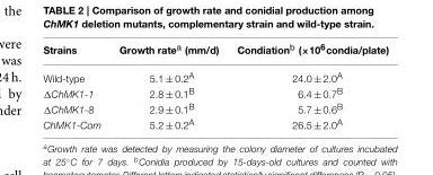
<table><thead><tr><td>Strains</td><td>Growth rate<sup>a</sup> (mm/d)</td><td>Condiation<sup>b</sup> (×10<sup>6</sup>condia/plate)</td></tr></thead><tbody><tr><td>Wild-type</td><td>5.1 ± 0.2<sup>A</sup></td><td>24.0 ± 2.0<sup>A</sup></td></tr><tr><td>ΔChMK1-1</td><td>2.8 ± 0.1<sup>B</sup></td><td>6.4 ± 0.7<sup>B</sup></td></tr><tr><td>ΔChMK1-8</td><td>2.9 ± 0.1<sup>B</sup></td><td>5.7 ± 0.6<sup>B</sup></td></tr><tr><td>ChMK1-Com</td><td>5.2 ± 0.2<sup>A</sup></td><td>26.5 ± 2.0<sup>A</sup></td></tr></tbody></table>